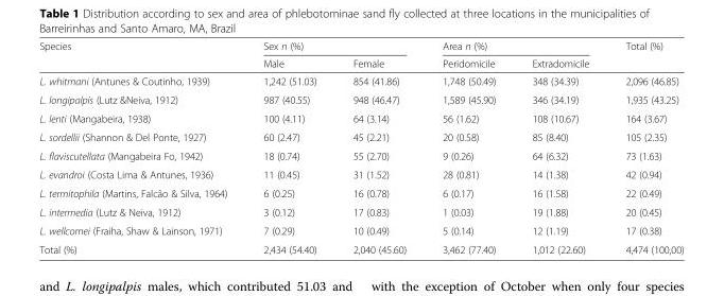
<table><thead><tr><td rowspan="2">Species</td><td colspan="2">Sex n (%)</td><td colspan="2">Area n (%)</td><td rowspan="2">Total (%)</td></tr><tr><td>Male</td><td>Female</td><td>Peridomicile</td><td>Extradomicile</td></tr></thead><tbody><tr><td>L. whitmani (Antunes &amp; Coutinho, 1939)</td><td>1,242 (51.03)</td><td>854 (41.86)</td><td>1,748 (50.49)</td><td>348 (34.39)</td><td>2,096 (46.85)</td></tr><tr><td>L. longipalpis (Lutz &amp;Neiva, 1912)</td><td>987 (40.55)</td><td>948 (46.47)</td><td>1,589 (45.90)</td><td>346 (34.19)</td><td>1,935 (43.25)</td></tr><tr><td>L. lenti (Mangabeira, 1938)</td><td>100 (4.11)</td><td>64 (3.14)</td><td>56 (1.62)</td><td>108 (10.67)</td><td>164 (3.67)</td></tr><tr><td>L. sordellii (Shannon &amp; Del Ponte, 1927)</td><td>60 (2.47)</td><td>45 (2.21)</td><td>20 (0.58)</td><td>85 (8.40)</td><td>105 (2.35)</td></tr><tr><td>L. flaviscutellata (Mangabeira Fo, 1942)</td><td>18 (0.74)</td><td>55 (2.70)</td><td>9 (0.26)</td><td>64 (6.32)</td><td>73 (1.63)</td></tr><tr><td>L. evandroi (Costa Lima &amp; Antunes, 1936)</td><td>11 (0.45)</td><td>31 (1.52)</td><td>28 (0.81)</td><td>14 (1.38)</td><td>42 (0.94)</td></tr><tr><td>L. termitophila (Martins, Falcão &amp; Silva, 1964)</td><td>6 (0.25)</td><td>16 (0.78)</td><td>6 (0.17)</td><td>16 (1.58)</td><td>22 (0.49)</td></tr><tr><td>L. intermedia (Lutz &amp; Neiva, 1912)</td><td>3 (0.12)</td><td>17 (0.83)</td><td>1 (0.03)</td><td>19 (1.88)</td><td>20 (0.45)</td></tr><tr><td>L. wellcomei (Fraiha, Shaw &amp; Lainson, 1971)</td><td>7 (0.29)</td><td>10 (0.49)</td><td>5 (0.14)</td><td>12 (1.19)</td><td>17 (0.38)</td></tr><tr><td>Total (%)</td><td>2,434 (54.40)</td><td>2,040 (45.60)</td><td>3,462 (77.40)</td><td>1,012 (22.60)</td><td>4,474 (100,00)</td></tr></tbody></table>